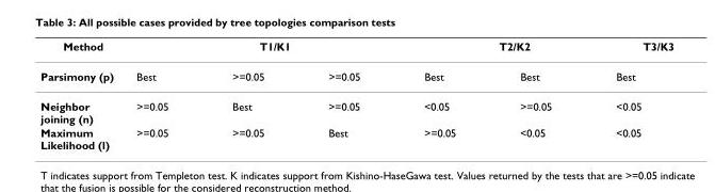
<table><thead><tr><td rowspan="2">Method Parsimony (p)</td><td colspan="3">T1/K1</td><td colspan="2">T2/K2</td><td rowspan="2">T3/K3 Best</td></tr><tr><td>Best</td><td>&gt;=0.05</td><td>&gt;=0.05</td><td>Best</td><td>Best</td></tr></thead><tbody><tr><td>Neighbor joining (n)</td><td>&gt;=0.05</td><td>Best</td><td>&gt;=0.05</td><td>&lt;0.05</td><td>&gt;=0.05</td><td>&lt;0.05</td></tr><tr><td>Maximum Likelihood (l)</td><td>&gt;=0.05</td><td>&gt;=0.05</td><td>Best</td><td>&gt;=0.05</td><td>&lt;0.05</td><td>&lt;0.05</td></tr></tbody></table>